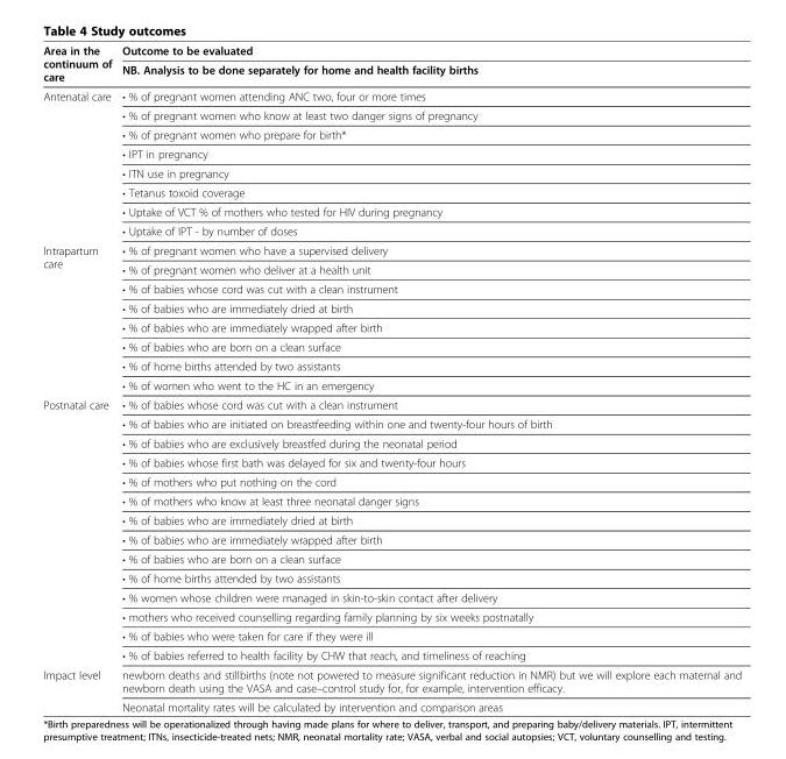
<table><thead><tr><td rowspan="2">Area in the continuum of care</td><td rowspan="2">Outcome to be evaluated NB. Analysis to be done separately for home and health facility births</td></tr><tr></tr></thead><tbody><tr><td rowspan="8">Antenatal care</td><td>• % of pregnant women attending ANC two, four or more times</td></tr><tr><td>• % of pregnant women who know at least two danger signs of pregnancy</td></tr><tr><td>• % of pregnant women who prepare for birth*</td></tr><tr><td>• IPT in pregnancy</td></tr><tr><td>• ITN use in pregnancy</td></tr><tr><td>• Tetanus toxoid coverage</td></tr><tr><td>• Uptake of VCT % of mothers who tested for HIV during pregnancy</td></tr><tr><td>• Uptake of IPT - by number of doses</td></tr><tr><td rowspan="8">Intrapartum care</td><td>• % of pregnant women who have a supervised delivery</td></tr><tr><td>• % of pregnant women who deliver at a health unit</td></tr><tr><td>• % of babies whose cord was cut with a clean instrument</td></tr><tr><td>• % of babies who are immediately dried at birth</td></tr><tr><td>• % of babies who are immediately wrapped after birth</td></tr><tr><td>• % of babies who are born on a clean surface</td></tr><tr><td>• % of home births attended by two assistants</td></tr><tr><td>• % of women who went to the HC in an emergency</td></tr><tr><td rowspan="14">Postnatal care</td><td>• % of babies whose cord was cut with a clean instrument</td></tr><tr><td>• % of babies who are initiated on breastfeeding within one and twenty-four hours of birth</td></tr><tr><td>• % of babies who are exclusively breastfed during the neonatal period</td></tr><tr><td>• % of babies whose first bath was delayed for six and twenty-four hours</td></tr><tr><td>• % of mothers who put nothing on the cord</td></tr><tr><td>• % of mothers who know at least three neonatal danger signs</td></tr><tr><td>• % of babies who are immediately dried at birth</td></tr><tr><td>• % of babies who are immediately wrapped after birth</td></tr><tr><td>• % of babies who are born on a clean surface</td></tr><tr><td>• % of home births attended by two assistants</td></tr><tr><td>• % women whose children were managed in skin-to-skin contact after delivery</td></tr><tr><td>• mothers who received counselling regarding family planning by six weeks postnatally</td></tr><tr><td>• % of babies who were taken for care if they were ill</td></tr><tr><td>• % of babies referred to health facility by CHW that reach, and timeliness of reaching</td></tr><tr><td rowspan="2">Impact level</td><td>newborn deaths and stillbirths (note not powered to measure significant reduction in NMR) but we will explore each maternal and newborn death using the VASA and case–control study for, for example, intervention efficacy.</td></tr><tr><td>Neonatal mortality rates will be calculated by intervention and comparison areas</td></tr></tbody></table>